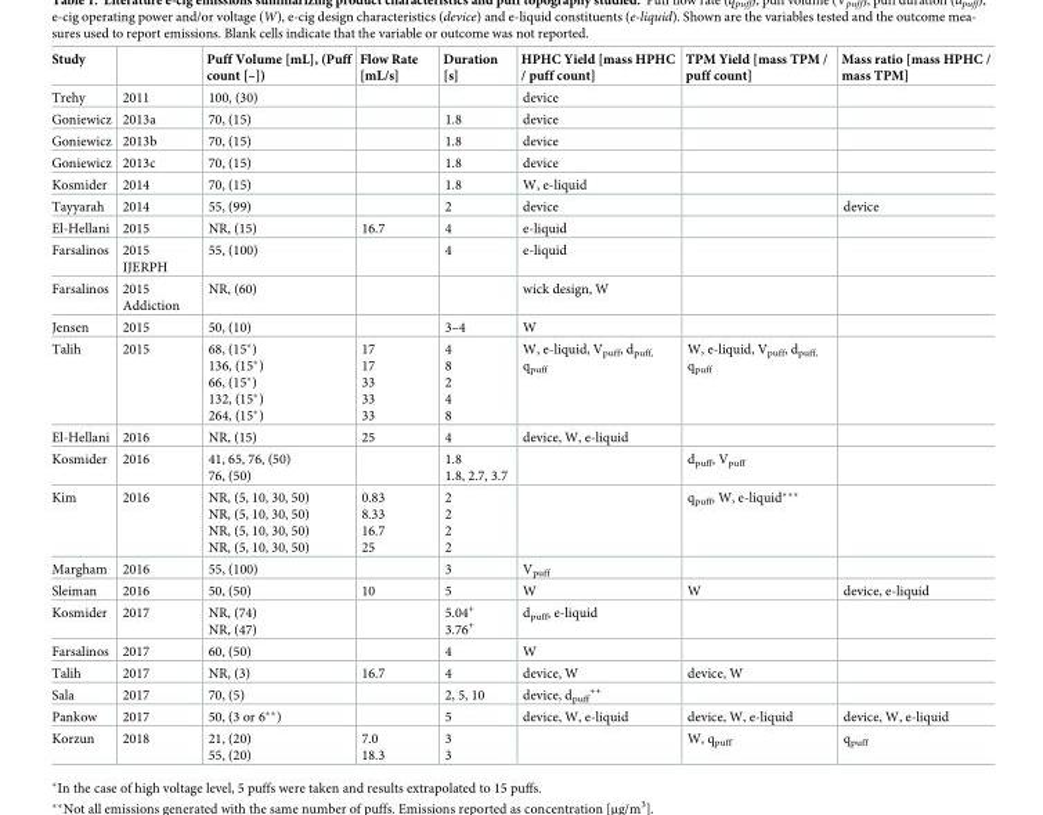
<table><thead><tr><td>Study</td><td></td><td>Puff Volume [mL], (Puff count [–])</td><td>Flow Rate [mL/s]</td><td>Duration [s]</td><td>HPHC Yield [mass HPHC / puff count]</td><td>TPM Yield [mass TPM / puff count]</td><td>Mass ratio [mass HPHC / mass TPM]</td></tr></thead><tbody><tr><td>Trehy</td><td>2011</td><td>100, (30)</td><td></td><td></td><td>device</td><td></td><td></td></tr><tr><td>Goniewicz</td><td>2013a</td><td>70, (15)</td><td></td><td>1.8</td><td>device</td><td></td><td></td></tr><tr><td>Goniewicz</td><td>2013b</td><td>70, (15)</td><td></td><td>1.8</td><td>device</td><td></td><td></td></tr><tr><td>Goniewicz</td><td>2013c</td><td>70, (15)</td><td></td><td>1.8</td><td>device</td><td></td><td></td></tr><tr><td>Kosmider</td><td>2014</td><td>70, (15)</td><td></td><td>1.8</td><td>W, e-liquid</td><td></td><td></td></tr><tr><td>Tayyarah</td><td>2014</td><td>55, (99)</td><td></td><td>2</td><td>device</td><td></td><td>device</td></tr><tr><td>El-Hellani</td><td>2015</td><td>NR, (15)</td><td>16.7</td><td>4</td><td>e-liquid</td><td></td><td></td></tr><tr><td>Farsalinos</td><td>2015 IJERPH</td><td>55, (100)</td><td></td><td>4</td><td>e-liquid</td><td></td><td></td></tr><tr><td>Farsalinos</td><td>2015 Addiction</td><td>NR, (60)</td><td></td><td></td><td>wick design, W</td><td></td><td></td></tr><tr><td>Jensen</td><td>2015</td><td>50, (10)</td><td></td><td>3–4</td><td>W</td><td></td><td></td></tr><tr><td>Talih</td><td>2015</td><td>68, (15*) 136, (15*) 66, (15*) 132, (15*) 264, (15*)</td><td>17 17 33 33 33</td><td>4 8 2 4 8</td><td>W, e-liquid, V<sub>puff</sub>, d<sub>puff,</sub> q<sub>puff</sub></td><td>W, e-liquid, V<sub>puff</sub>, d<sub>puff,</sub> q<sub>puff</sub></td><td></td></tr><tr><td>El-Hellani</td><td>2016</td><td>NR, (15)</td><td>25</td><td>4</td><td>device, W, e-liquid</td><td></td><td></td></tr><tr><td>Kosmider</td><td>2016</td><td>41, 65, 76, (50) 76, (50)</td><td></td><td>1.8 1.8, 2.7, 3.7</td><td></td><td>d<sub>puff</sub>, V<sub>puff</sub></td><td></td></tr><tr><td>Kim</td><td>2016</td><td>NR, (5, 10, 30, 50) NR, (5, 10, 30, 50) NR, (5, 10, 30, 50) NR, (5, 10, 30, 50)</td><td>0.83 8.33 16.7 25</td><td>2 2 2 2</td><td></td><td>q<sub>puff</sub>, W, e-liquid***</td><td></td></tr><tr><td>Margham</td><td>2016</td><td>55, (100)</td><td></td><td>3</td><td>V<sub>puff</sub></td><td></td><td></td></tr><tr><td>Sleiman</td><td>2016</td><td>50, (50)</td><td>10</td><td>5</td><td>W</td><td>W</td><td>device, e-liquid</td></tr><tr><td>Kosmider</td><td>2017</td><td>NR, (74) NR, (47)</td><td></td><td>5.04<sup>+</sup> 3.76<sup>+</sup></td><td>d<sub>puff</sub>, e-liquid</td><td></td><td></td></tr><tr><td>Farsalinos</td><td>2017</td><td>60, (50)</td><td></td><td>4</td><td>W</td><td></td><td></td></tr><tr><td>Talih</td><td>2017</td><td>NR, (3)</td><td>16.7</td><td>4</td><td>device, W</td><td>device, W</td><td></td></tr><tr><td>Sala</td><td>2017</td><td>70, (5)</td><td></td><td>2, 5, 10</td><td>device, d<sub>puff</sub> <sup>++</sup></td><td></td><td></td></tr><tr><td>Pankow</td><td>2017</td><td>50, (3 or 6**)</td><td></td><td>5</td><td>device, W, e-liquid</td><td>device, W, e-liquid</td><td>device, W, e-liquid</td></tr><tr><td>Korzun</td><td>2018</td><td>21, (20) 55, (20)</td><td>7.0 18.3</td><td>3 3</td><td></td><td>W, q<sub>puff</sub></td><td>q<sub>puff</sub></td></tr></tbody></table>